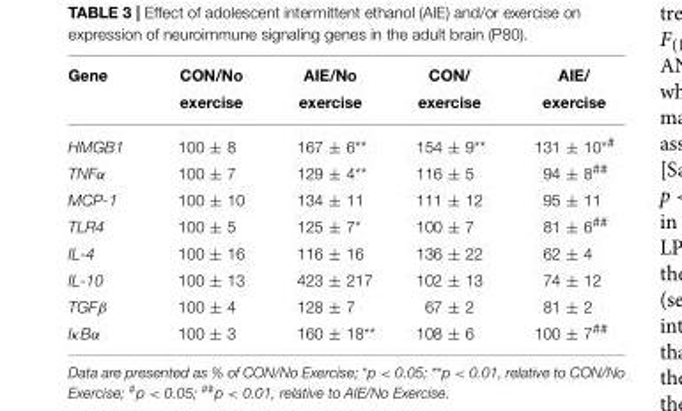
<table><thead><tr><td>Gene</td><td>CON/No exercise</td><td>AIE/No exercise</td><td>CON/ exercise</td><td>AIE/ exercise</td></tr></thead><tbody><tr><td>HMGB1</td><td>100 ± 8</td><td>167 ± 6**</td><td>154 ± 9**</td><td>131 ± 10<sup>*#</sup></td></tr><tr><td>TNFα</td><td>100 ± 7</td><td>129 ± 4**</td><td>116 ± 5</td><td>94 ± 8<sup>##</sup></td></tr><tr><td>MCP-1</td><td>100 ± 10</td><td>134 ± 11</td><td>111 ± 12</td><td>95 ± 11</td></tr><tr><td>TLR4</td><td>100 ± 5</td><td>125 ± 7*</td><td>100 ± 7</td><td>81 ± 6<sup>##</sup></td></tr><tr><td>IL-4</td><td>100 ± 16</td><td>116 ± 16</td><td>136 ± 22</td><td>62 ± 4</td></tr><tr><td>IL-10</td><td>100 ± 13</td><td>423 ± 217</td><td>102 ± 13</td><td>74 ± 12</td></tr><tr><td>TGFβ</td><td>100 ± 4</td><td>128 ± 7</td><td>67 ± 2</td><td>81 ± 2</td></tr><tr><td>IκBα</td><td>100 ± 3</td><td>160 ± 18**</td><td>108 ± 6</td><td>100 ± 7<sup>##</sup></td></tr></tbody></table>